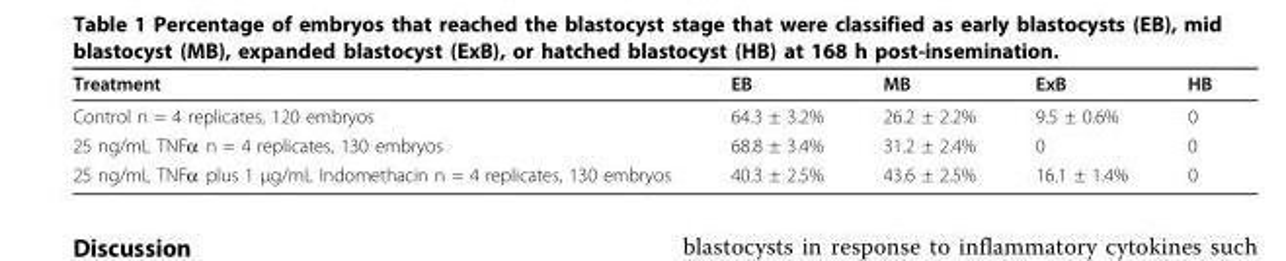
<table><thead><tr><td>Treatment</td><td>EB</td><td>MB</td><td>ExB</td><td>HB</td></tr></thead><tbody><tr><td>Control n = 4 replicates, 120 embryos</td><td>64.3 ± 3.2%</td><td>26.2 ± 2.2%</td><td>9.5 ± 0.6%</td><td>0</td></tr><tr><td>25 ng/mL TNFα n = 4 replicates, 130 embryos</td><td>68.8 ± 3.4%</td><td>31.2 ± 2.4%</td><td>0</td><td>0</td></tr><tr><td>25 ng/mL TNFα plus 1 μg/mL Indomethacin n = 4 replicates, 130 embryos</td><td>40.3 ± 2.5%</td><td>43.6 ± 2.5%</td><td>16.1 ± 1.4%</td><td>0</td></tr></tbody></table>